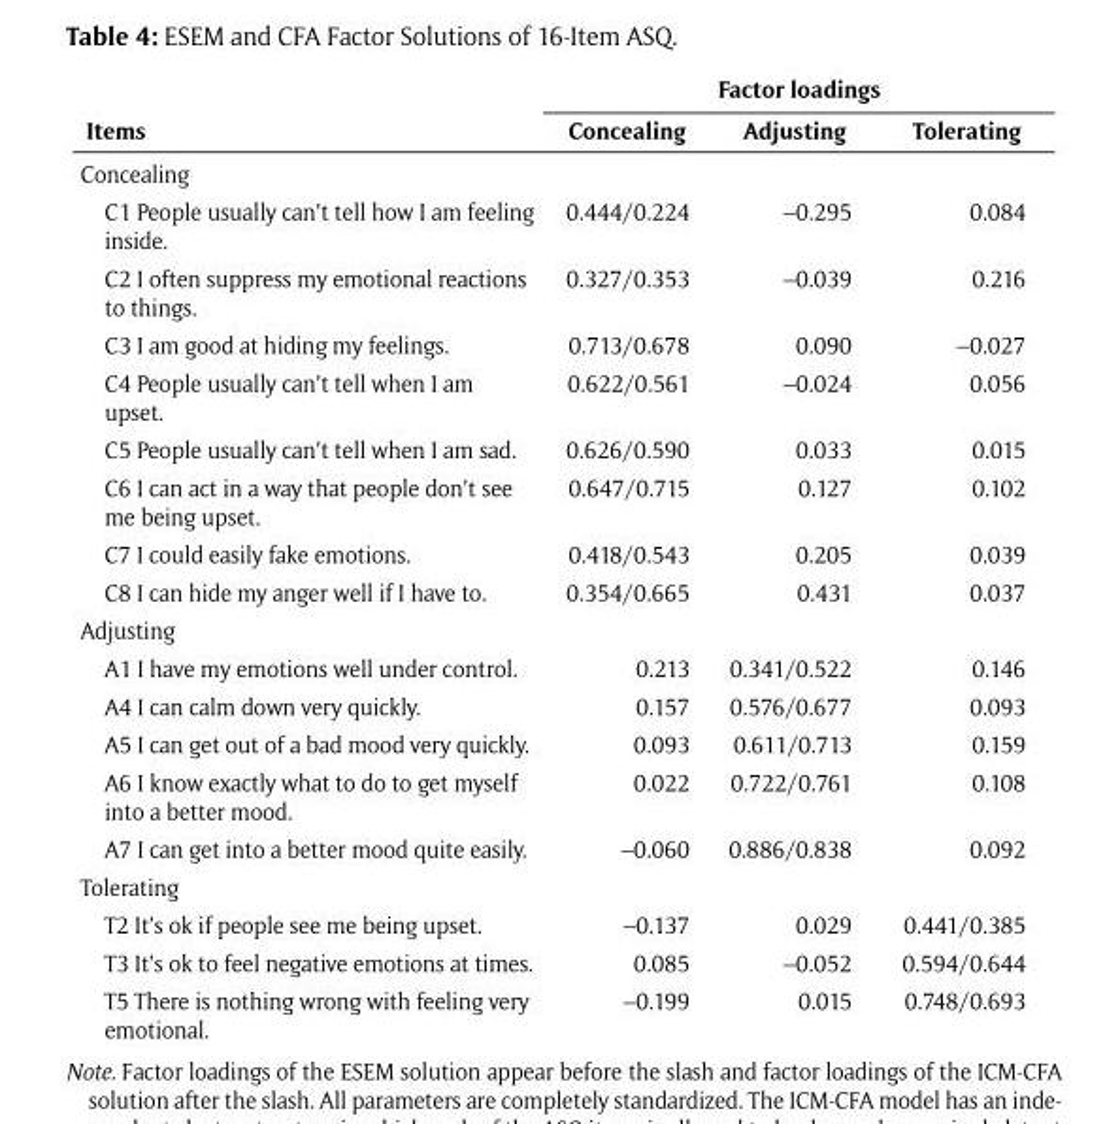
<table><thead><tr><td rowspan="2">Items</td><td colspan="3">Factor loadings</td></tr><tr><td>Concealing</td><td>Adjusting</td><td>Tolerating</td></tr></thead><tbody><tr><td colspan="4">Concealing</td></tr><tr><td>C1 People usually can’t tell how I am feeling inside.</td><td>0.444/0.224</td><td>–0.295</td><td>0.084</td></tr><tr><td>C2 I often suppress my emotional reactions to things.</td><td>0.327/0.353</td><td>–0.039</td><td>0.216</td></tr><tr><td>C3 I am good at hiding my feelings.</td><td>0.713/0.678</td><td>0.090</td><td>–0.027</td></tr><tr><td>C4 People usually can’t tell when I am upset.</td><td>0.622/0.561</td><td>–0.024</td><td>0.056</td></tr><tr><td>C5 People usually can’t tell when I am sad.</td><td>0.626/0.590</td><td>0.033</td><td>0.015</td></tr><tr><td>C6 I can act in a way that people don’t see me being upset.</td><td>0.647/0.715</td><td>0.127</td><td>0.102</td></tr><tr><td>C7 I could easily fake emotions.</td><td>0.418/0.543</td><td>0.205</td><td>0.039</td></tr><tr><td>C8 I can hide my anger well if I have to.</td><td>0.354/0.665</td><td>0.431</td><td>0.037</td></tr><tr><td colspan="4">Adjusting</td></tr><tr><td>A1 I have my emotions well under control.</td><td>0.213</td><td>0.341/0.522</td><td>0.146</td></tr><tr><td>A4 I can calm down very quickly.</td><td>0.157</td><td>0.576/0.677</td><td>0.093</td></tr><tr><td>A5 I can get out of a bad mood very quickly.</td><td>0.093</td><td>0.611/0.713</td><td>0.159</td></tr><tr><td>A6 I know exactly what to do to get myself into a better mood.</td><td>0.022</td><td>0.722/0.761</td><td>0.108</td></tr><tr><td>A7 I can get into a better mood quite easily.</td><td>–0.060</td><td>0.886/0.838</td><td>0.092</td></tr><tr><td colspan="4">Tolerating</td></tr><tr><td>T2 It’s ok if people see me being upset.</td><td>–0.137</td><td>0.029</td><td>0.441/0.385</td></tr><tr><td>T3 It’s ok to feel negative emotions at times.</td><td>0.085</td><td>–0.052</td><td>0.594/0.644</td></tr><tr><td>T5 There is nothing wrong with feeling very emotional.</td><td>–0.199</td><td>0.015</td><td>0.748/0.693</td></tr></tbody></table>